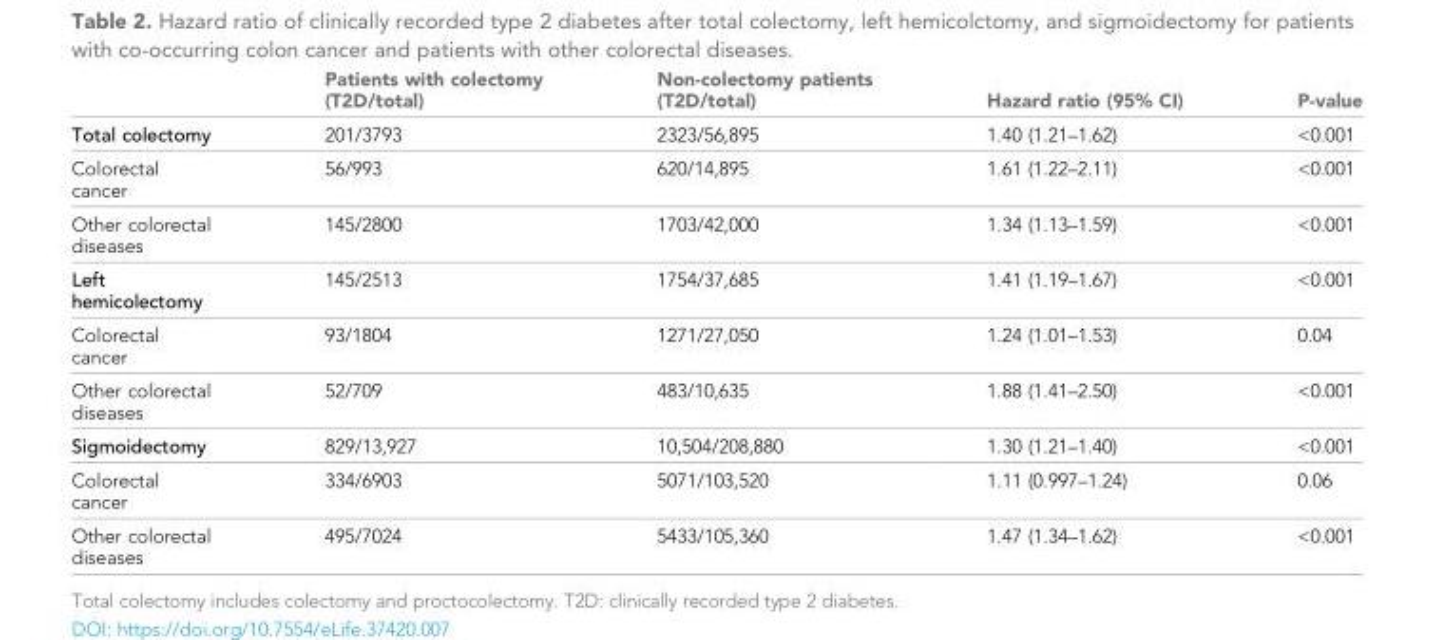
<table><thead><tr><td></td><td>Patients with colectomy (T2D/total)</td><td>Non-colectomy patients (T2D/total)</td><td>Hazard ratio (95% CI)</td><td>P-value</td></tr></thead><tbody><tr><td>Total colectomy</td><td>201/3793</td><td>2323/56,895</td><td>1.40 (1.21–1.62)</td><td>&lt;0.001</td></tr><tr><td>Colorectal cancer</td><td>56/993</td><td>620/14,895</td><td>1.61 (1.22–2.11)</td><td>&lt;0.001</td></tr><tr><td>Other colorectal diseases</td><td>145/2800</td><td>1703/42,000</td><td>1.34 (1.13–1.59)</td><td>&lt;0.001</td></tr><tr><td>Left hemicolectomy</td><td>145/2513</td><td>1754/37,685</td><td>1.41 (1.19–1.67)</td><td>&lt;0.001</td></tr><tr><td>Colorectal cancer</td><td>93/1804</td><td>1271/27,050</td><td>1.24 (1.01–1.53)</td><td>0.04</td></tr><tr><td>Other colorectal diseases</td><td>52/709</td><td>483/10,635</td><td>1.88 (1.41–2.50)</td><td>&lt;0.001</td></tr><tr><td>Sigmoidectomy</td><td>829/13,927</td><td>10,504/208,880</td><td>1.30 (1.21–1.40)</td><td>&lt;0.001</td></tr><tr><td>Colorectal cancer</td><td>334/6903</td><td>5071/103,520</td><td>1.11 (0.997–1.24)</td><td>0.06</td></tr><tr><td>Other colorectal diseases</td><td>495/7024</td><td>5433/105,360</td><td>1.47 (1.34–1.62)</td><td>&lt;0.001</td></tr></tbody></table>